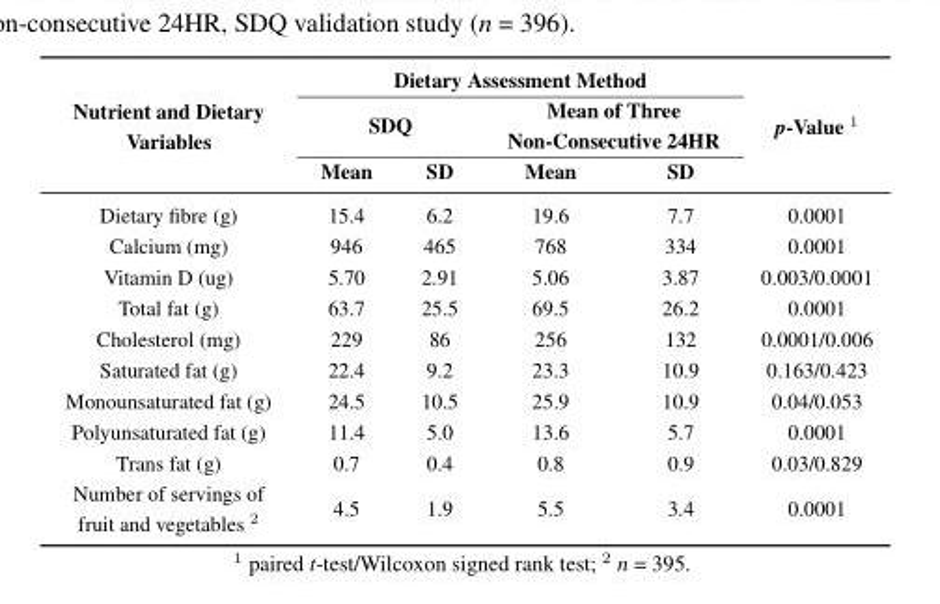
<table><thead><tr><td rowspan="3">Nutrient and Dietary Variables</td><td colspan="4">Dietary Assessment Method</td><td rowspan="3">p-Value <sup>1</sup></td></tr><tr><td colspan="2">SDQ</td><td colspan="2">Mean of Three Non-Consecutive 24HR</td></tr><tr><td>Mean</td><td>SD</td><td>Mean</td><td>SD</td></tr></thead><tbody><tr><td>Dietary fibre (g)</td><td>15.4</td><td>6.2</td><td>19.6</td><td>7.7</td><td>0.0001</td></tr><tr><td>Calcium (mg)</td><td>946</td><td>465</td><td>768</td><td>334</td><td>0.0001</td></tr><tr><td>Vitamin D (ug)</td><td>5.70</td><td>2.91</td><td>5.06</td><td>3.87</td><td>0.003/0.0001</td></tr><tr><td>Total fat (g)</td><td>63.7</td><td>25.5</td><td>69.5</td><td>26.2</td><td>0.0001</td></tr><tr><td>Cholesterol (mg)</td><td>229</td><td>86</td><td>256</td><td>132</td><td>0.0001/0.006</td></tr><tr><td>Saturated fat (g)</td><td>22.4</td><td>9.2</td><td>23.3</td><td>10.9</td><td>0.163/0.423</td></tr><tr><td>Monounsaturated fat (g)</td><td>24.5</td><td>10.5</td><td>25.9</td><td>10.9</td><td>0.04/0.053</td></tr><tr><td>Polyunsaturated fat (g)</td><td>11.4</td><td>5.0</td><td>13.6</td><td>5.7</td><td>0.0001</td></tr><tr><td>Trans fat (g)</td><td>0.7</td><td>0.4</td><td>0.8</td><td>0.9</td><td>0.03/0.829</td></tr><tr><td>Number of servings of fruit and vegetables <sup>2</sup></td><td>4.5</td><td>1.9</td><td>5.5</td><td>3.4</td><td>0.0001</td></tr></tbody></table>